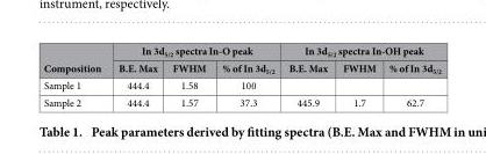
<table><thead><tr><td rowspan="2">Composition</td><td colspan="3">In 3d<sub>5/2</sub> spectra In-O peak</td><td colspan="3">In 3d<sub>5/2</sub> spectra In-OH peak</td></tr><tr><td>B.E. Max</td><td>FWHM</td><td>% of In 3d<sub>5/2</sub></td><td>B.E. Max</td><td>FWHM</td><td>% of In 3d<sub>5/2</sub></td></tr></thead><tbody><tr><td>Sample 1</td><td>444.4</td><td>1.58</td><td>100</td><td></td><td></td><td></td></tr><tr><td>Sample 2</td><td>444.4</td><td>1.57</td><td>37.3</td><td>445.9</td><td>1.7</td><td>62.7</td></tr></tbody></table>